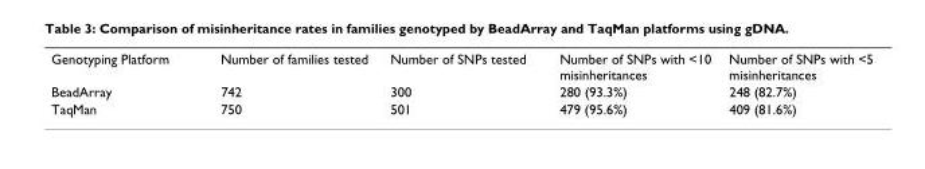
<table><tbody><tr><td>Genotyping Platform</td><td>Number of families tested</td><td>Number of SNPs tested</td><td>Number of SNPs with &lt;10 misinheritances</td><td>Number of SNPs with &lt;5 misinheritances</td></tr><tr><td>BeadArray</td><td>742</td><td>300</td><td>280 (93.3%)</td><td>248 (82.7%)</td></tr><tr><td>TaqMan</td><td>750</td><td>501</td><td>479 (95.6%)</td><td>409 (81.6%)</td></tr></tbody></table>